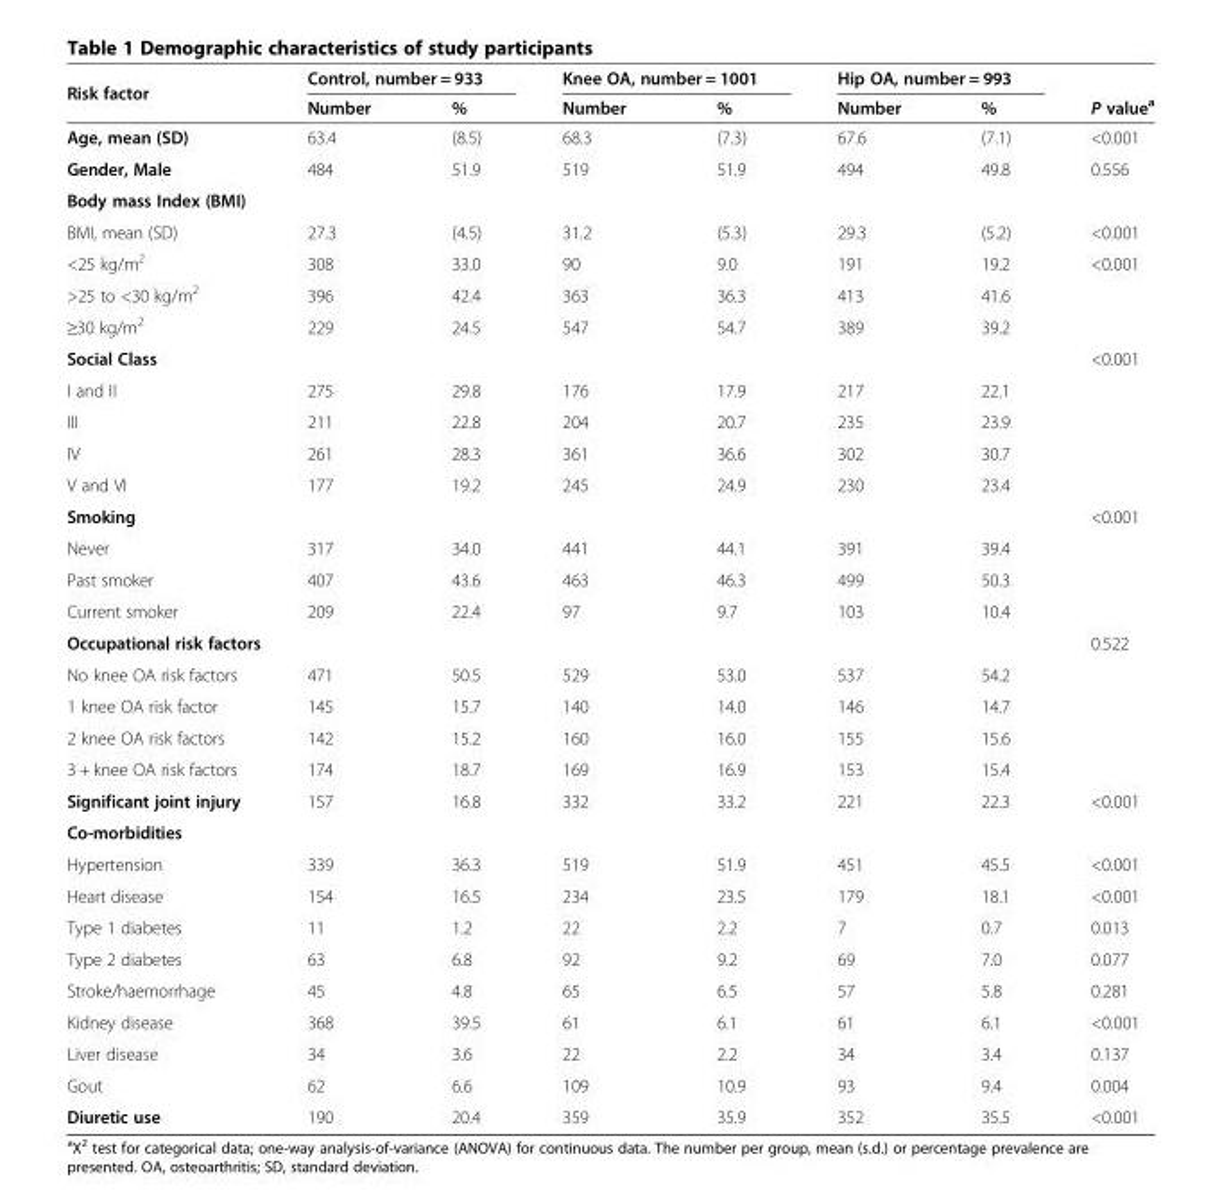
<table><thead><tr><td rowspan="2">Risk factor</td><td colspan="2">Control, number = 933</td><td colspan="2">Knee OA, number = 1001</td><td colspan="2">Hip OA, number = 993</td><td rowspan="2">P value<sup>a</sup></td></tr><tr><td>Number</td><td>%</td><td>Number</td><td>%</td><td>Number</td><td>%</td></tr></thead><tbody><tr><td>Age, mean (SD)</td><td>63.4</td><td>(8.5)</td><td>68.3</td><td>(7.3)</td><td>67.6</td><td>(7.1)</td><td>&lt;0.001</td></tr><tr><td>Gender, Male</td><td>484</td><td>51.9</td><td>519</td><td>51.9</td><td>494</td><td>49.8</td><td>0.556</td></tr><tr><td colspan="8">Body mass Index (BMI)</td></tr><tr><td>BMI, mean (SD)</td><td>27.3</td><td>(4.5)</td><td>31.2</td><td>(5.3)</td><td>29.3</td><td>(5.2)</td><td>&lt;0.001</td></tr><tr><td>&lt;25 kg/m<sup>2</sup></td><td>308</td><td>33.0</td><td>90</td><td>9.0</td><td>191</td><td>19.2</td><td>&lt;0.001</td></tr><tr><td>&gt;25 to &lt;30 kg/m<sup>2</sup></td><td>396</td><td>42.4</td><td>363</td><td>36.3</td><td>413</td><td>41.6</td><td></td></tr><tr><td>≥30 kg/m<sup>2</sup></td><td>229</td><td>24.5</td><td>547</td><td>54.7</td><td>389</td><td>39.2</td><td></td></tr><tr><td>Social Class</td><td></td><td></td><td></td><td></td><td></td><td></td><td>&lt;0.001</td></tr><tr><td>I and II</td><td>275</td><td>29.8</td><td>176</td><td>17.9</td><td>217</td><td>22.1</td><td></td></tr><tr><td>III</td><td>211</td><td>22.8</td><td>204</td><td>20.7</td><td>235</td><td>23.9</td><td></td></tr><tr><td>IV</td><td>261</td><td>28.3</td><td>361</td><td>36.6</td><td>302</td><td>30.7</td><td></td></tr><tr><td>V and VI</td><td>177</td><td>19.2</td><td>245</td><td>24.9</td><td>230</td><td>23.4</td><td></td></tr><tr><td>Smoking</td><td></td><td></td><td></td><td></td><td></td><td></td><td>&lt;0.001</td></tr><tr><td>Never</td><td>317</td><td>34.0</td><td>441</td><td>44.1</td><td>391</td><td>39.4</td><td></td></tr><tr><td>Past smoker</td><td>407</td><td>43.6</td><td>463</td><td>46.3</td><td>499</td><td>50.3</td><td></td></tr><tr><td>Current smoker</td><td>209</td><td>22.4</td><td>97</td><td>9.7</td><td>103</td><td>10.4</td><td></td></tr><tr><td>Occupational risk factors</td><td></td><td></td><td></td><td></td><td></td><td></td><td>0.522</td></tr><tr><td>No knee OA risk factors</td><td>471</td><td>50.5</td><td>529</td><td>53.0</td><td>537</td><td>54.2</td><td></td></tr><tr><td>1 knee OA risk factor</td><td>145</td><td>15.7</td><td>140</td><td>14.0</td><td>146</td><td>14.7</td><td></td></tr><tr><td>2 knee OA risk factors</td><td>142</td><td>15.2</td><td>160</td><td>16.0</td><td>155</td><td>15.6</td><td></td></tr><tr><td>3 + knee OA risk factors</td><td>174</td><td>18.7</td><td>169</td><td>16.9</td><td>153</td><td>15.4</td><td></td></tr><tr><td>Significant joint injury</td><td>157</td><td>16.8</td><td>332</td><td>33.2</td><td>221</td><td>22.3</td><td>&lt;0.001</td></tr><tr><td colspan="8">Co-morbidities</td></tr><tr><td>Hypertension</td><td>339</td><td>36.3</td><td>519</td><td>51.9</td><td>451</td><td>45.5</td><td>&lt;0.001</td></tr><tr><td>Heart disease</td><td>154</td><td>16.5</td><td>234</td><td>23.5</td><td>179</td><td>18.1</td><td>&lt;0.001</td></tr><tr><td>Type 1 diabetes</td><td>11</td><td>1.2</td><td>22</td><td>2.2</td><td>7</td><td>0.7</td><td>0.013</td></tr><tr><td>Type 2 diabetes</td><td>63</td><td>6.8</td><td>92</td><td>9.2</td><td>69</td><td>7.0</td><td>0.077</td></tr><tr><td>Stroke/haemorrhage</td><td>45</td><td>4.8</td><td>65</td><td>6.5</td><td>57</td><td>5.8</td><td>0.281</td></tr><tr><td>Kidney disease</td><td>368</td><td>39.5</td><td>61</td><td>6.1</td><td>61</td><td>6.1</td><td>&lt;0.001</td></tr><tr><td>Liver disease</td><td>34</td><td>3.6</td><td>22</td><td>2.2</td><td>34</td><td>3.4</td><td>0.137</td></tr><tr><td>Gout</td><td>62</td><td>6.6</td><td>109</td><td>10.9</td><td>93</td><td>9.4</td><td>0.004</td></tr><tr><td>Diuretic use</td><td>190</td><td>20.4</td><td>359</td><td>35.9</td><td>352</td><td>35.5</td><td>&lt;0.001</td></tr></tbody></table>